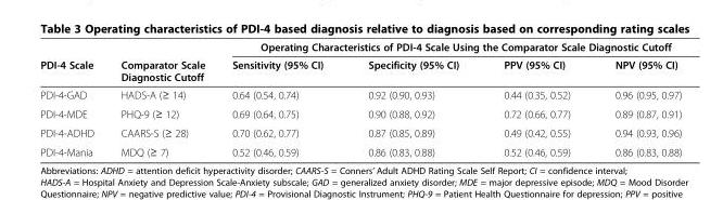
<table><thead><tr><td rowspan="2">PDI-4 Scale</td><td rowspan="2">Comparator Scale Diagnostic Cutoff</td><td colspan="4">Operating Characteristics of PDI-4 Scale Using the Comparator Scale Diagnostic Cutoff</td></tr><tr><td>Sensitivity (95% CI)</td><td>Specificity (95% CI)</td><td>PPV (95% CI)</td><td>NPV (95% CI)</td></tr></thead><tbody><tr><td>PDI-4-GAD</td><td>HADS-A (≥ 14)</td><td>0.64 (0.54, 0.74)</td><td>0.92 (0.90, 0.93)</td><td>0.44 (0.35, 0.52)</td><td>0.96 (0.95, 0.97)</td></tr><tr><td>PDI-4-MDE</td><td>PHQ-9 (≥ 12)</td><td>0.69 (0.64, 0.75)</td><td>0.90 (0.88, 0.92)</td><td>0.72 (0.66, 0.77)</td><td>0.89 (0.87, 0.91)</td></tr><tr><td>PDI-4-ADHD</td><td>CAARS-S (≥ 28)</td><td>0.70 (0.62, 0.77)</td><td>0.87 (0.85, 0.89)</td><td>0.49 (0.42, 0.55)</td><td>0.94 (0.93, 0.96)</td></tr><tr><td>PDI-4-Mania</td><td>MDQ (≥ 7)</td><td>0.52 (0.46, 0.59)</td><td>0.86 (0.83, 0.88)</td><td>0.52 (0.46, 0.59)</td><td>0.86 (0.83, 0.88)</td></tr></tbody></table>